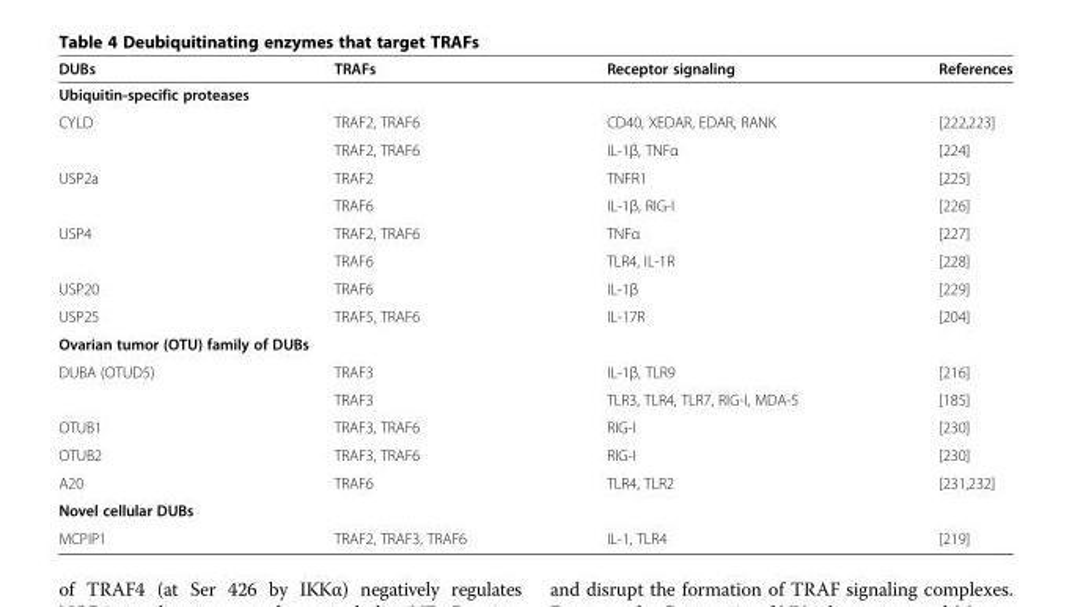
<table><thead><tr><td>DUBs</td><td>TRAFs</td><td>Receptor signaling</td><td>References</td></tr></thead><tbody><tr><td colspan="4">Ubiquitin-specific proteases</td></tr><tr><td rowspan="2">CYLD</td><td>TRAF2, TRAF6</td><td>CD40, XEDAR, EDAR, RANK</td><td>[222,223]</td></tr><tr><td>TRAF2, TRAF6</td><td>IL-1β, TNFα</td><td>[224]</td></tr><tr><td rowspan="2">USP2a</td><td>TRAF2</td><td>TNFR1</td><td>[225]</td></tr><tr><td>TRAF6</td><td>IL-1β, RIG-I</td><td>[226]</td></tr><tr><td rowspan="2">USP4</td><td>TRAF2, TRAF6</td><td>TNFα</td><td>[227]</td></tr><tr><td>TRAF6</td><td>TLR4, IL-1R</td><td>[228]</td></tr><tr><td>USP20</td><td>TRAF6</td><td>IL-1β</td><td>[229]</td></tr><tr><td>USP25</td><td>TRAF5, TRAF6</td><td>IL-17R</td><td>[204]</td></tr><tr><td colspan="4">Ovarian tumor (OTU) family of DUBs</td></tr><tr><td rowspan="2">DUBA (OTUD5)</td><td>TRAF3</td><td>IL-1β, TLR9</td><td>[216]</td></tr><tr><td>TRAF3</td><td>TLR3, TLR4, TLR7, RIG-I, MDA-5</td><td>[185]</td></tr><tr><td>OTUB1</td><td>TRAF3, TRAF6</td><td>RIG-I</td><td>[230]</td></tr><tr><td>OTUB2</td><td>TRAF3, TRAF6</td><td>RIG-I</td><td>[230]</td></tr><tr><td>A20</td><td>TRAF6</td><td>TLR4, TLR2</td><td>[231,232]</td></tr><tr><td colspan="4">Novel cellular DUBs</td></tr><tr><td>MCPIP1</td><td>TRAF2, TRAF3, TRAF6</td><td>IL-1, TLR4</td><td>[219]</td></tr></tbody></table>